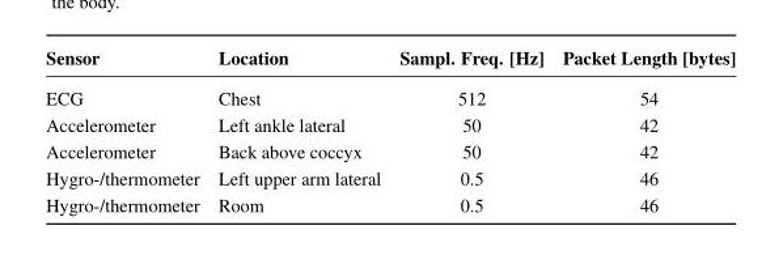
<table><thead><tr><td>Sensor</td><td>Location</td><td>Sampl. Freq. [Hz]</td><td>Packet Length [bytes]</td></tr></thead><tbody><tr><td>ECG</td><td>Chest</td><td>512</td><td>54</td></tr><tr><td>Accelerometer</td><td>Left ankle lateral</td><td>50</td><td>42</td></tr><tr><td>Accelerometer</td><td>Back above coccyx</td><td>50</td><td>42</td></tr><tr><td>Hygro-/thermometer</td><td>Left upper arm lateral</td><td>0.5</td><td>46</td></tr><tr><td>Hygro-/thermometer</td><td>Room</td><td>0.5</td><td>46</td></tr></tbody></table>